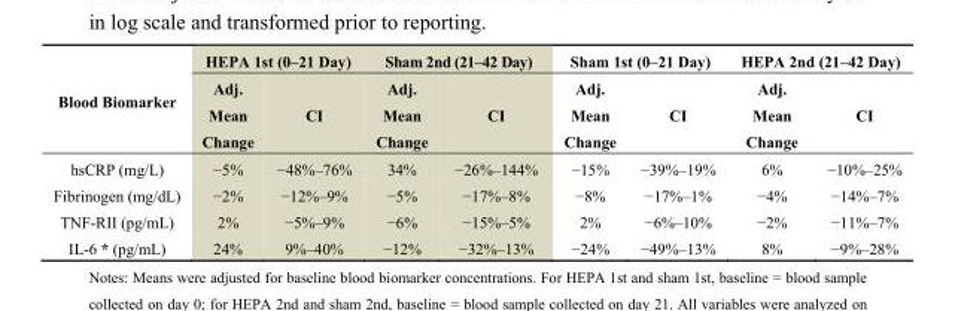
<table><thead><tr><td rowspan="2">Blood Biomarker</td><td colspan="2">HEPA 1st (0–21 Day)</td><td colspan="2">Sham 2nd (21–42 Day)</td><td colspan="2">Sham 1st (0–21 Day)</td><td colspan="2">HEPA 2nd (21–42 Day)</td></tr><tr><td>Adj. Mean Change</td><td>CI</td><td>Adj. Mean Change</td><td>CI</td><td>Adj. Mean Change</td><td>CI</td><td>Adj. Mean Change</td><td>CI</td></tr></thead><tbody><tr><td>hsCRP (mg/L)</td><td>−5%</td><td>−48%–76%</td><td>34%</td><td>−26%–144%</td><td>−15%</td><td>−39%–19%</td><td>6%</td><td>−10%–25%</td></tr><tr><td>Fibrinogen (mg/dL)</td><td>−2%</td><td>−12%–9%</td><td>−5%</td><td>−17%–8%</td><td>−8%</td><td>−17%–1%</td><td>−4%</td><td>−14%–7%</td></tr><tr><td>TNF-RII (pg/mL)</td><td>2%</td><td>−5%–9%</td><td>−6%</td><td>−15%–5%</td><td>2%</td><td>−6%–10%</td><td>−2%</td><td>−11%–7%</td></tr><tr><td>IL-6 * (pg/mL)</td><td>24%</td><td>9%–40%</td><td>−12%</td><td>−32%–13%</td><td>−24%</td><td>−49%–13%</td><td>8%</td><td>−9%–28%</td></tr></tbody></table>